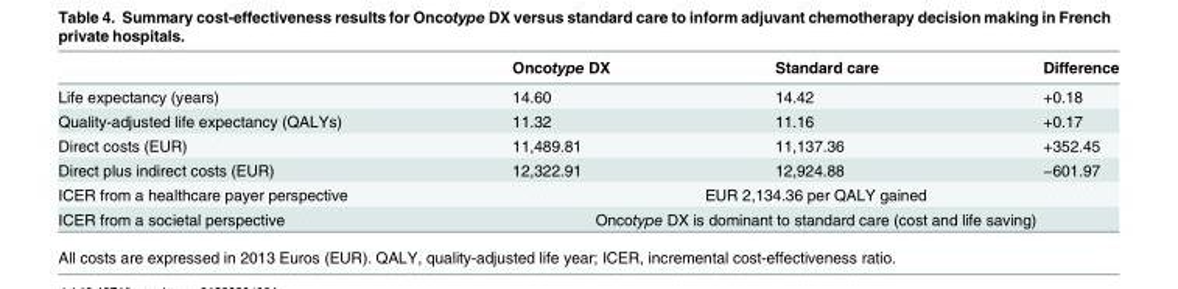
<table><thead><tr><td></td><td>Oncotype DX</td><td>Standard care</td><td>Difference</td></tr></thead><tbody><tr><td>Life expectancy (years)</td><td>14.60</td><td>14.42</td><td>+0.18</td></tr><tr><td>Quality-adjusted life expectancy (QALYs)</td><td>11.32</td><td>11.16</td><td>+0.17</td></tr><tr><td>Direct costs (EUR)</td><td>11,489.81</td><td>11,137.36</td><td>+352.45</td></tr><tr><td>Direct plus indirect costs (EUR)</td><td>12,322.91</td><td>12,924.88</td><td>−601.97</td></tr><tr><td>ICER from a healthcare payer perspective</td><td colspan="3">EUR 2,134.36 per QALY gained</td></tr><tr><td>ICER from a societal perspective</td><td colspan="3">Oncotype DX is dominant to standard care (cost and life saving)</td></tr></tbody></table>